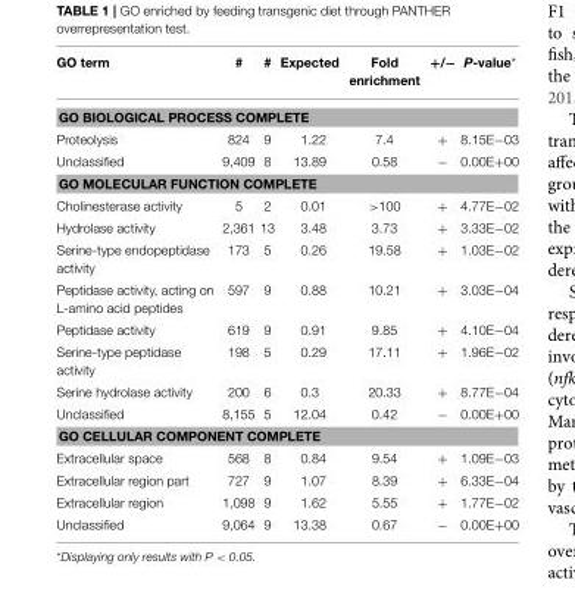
<table><thead><tr><td>GO term</td><td>#</td><td>#</td><td>Expected</td><td>Fold enrichment</td><td>+/−</td><td>P-value*</td></tr></thead><tbody><tr><td colspan="7">GO BIOLOGICAL PROCESS COMPLETE</td></tr><tr><td>Proteolysis</td><td>824</td><td>9</td><td>1.22</td><td>7.4</td><td>+</td><td>8.15E−03</td></tr><tr><td>Unclassified</td><td>9,409</td><td>8</td><td>13.89</td><td>0.58</td><td>−</td><td>0.00E+00</td></tr><tr><td colspan="7">GO MOLECULAR FUNCTION COMPLETE</td></tr><tr><td>Cholinesterase activity</td><td>5</td><td>2</td><td>0.01</td><td>&gt;100</td><td>+</td><td>4.77E−02</td></tr><tr><td>Hydrolase activity</td><td>2,361</td><td>13</td><td>3.48</td><td>3.73</td><td>+</td><td>3.33E−02</td></tr><tr><td>Serine-type endopeptidase activity</td><td>173</td><td>5</td><td>0.26</td><td>19.58</td><td>+</td><td>1.03E−02</td></tr><tr><td>Peptidase activity, acting on L-amino acid peptides</td><td>597</td><td>9</td><td>0.88</td><td>10.21</td><td>+</td><td>3.03E−04</td></tr><tr><td>Peptidase activity</td><td>619</td><td>9</td><td>0.91</td><td>9.85</td><td>+</td><td>4.10E−04</td></tr><tr><td>Serine-type peptidase activity</td><td>198</td><td>5</td><td>0.29</td><td>17.11</td><td>+</td><td>1.96E−02</td></tr><tr><td>Serine hydrolase activity</td><td>200</td><td>6</td><td>0.3</td><td>20.33</td><td>+</td><td>8.77E−04</td></tr><tr><td>Unclassified</td><td>8,155</td><td>5</td><td>12.04</td><td>0.42</td><td>−</td><td>0.00E+00</td></tr><tr><td colspan="7">GO CELLULAR COMPONENT COMPLETE</td></tr><tr><td>Extracellular space</td><td>568</td><td>8</td><td>0.84</td><td>9.54</td><td>+</td><td>1.09E−03</td></tr><tr><td>Extracellular region part</td><td>727</td><td>9</td><td>1.07</td><td>8.39</td><td>+</td><td>6.33E−04</td></tr><tr><td>Extracellular region</td><td>1,098</td><td>9</td><td>1.62</td><td>5.55</td><td>+</td><td>1.77E−02</td></tr><tr><td>Unclassified</td><td>9,064</td><td>9</td><td>13.38</td><td>0.67</td><td>−</td><td>0.00E+00</td></tr></tbody></table>